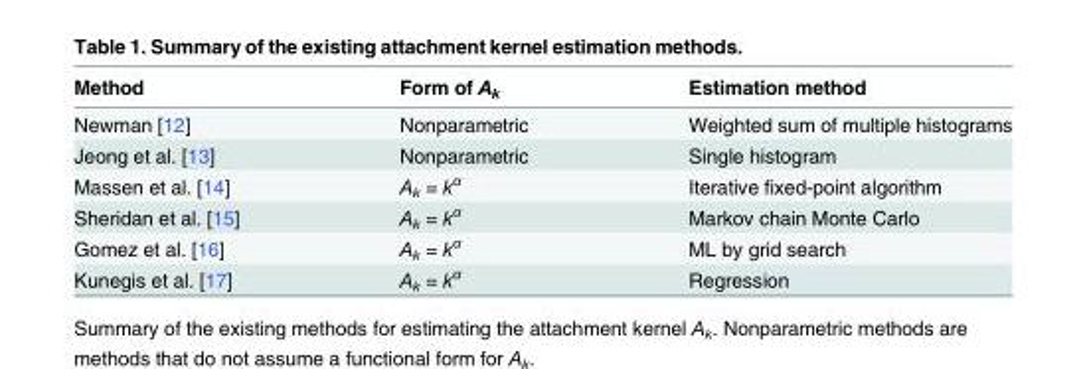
<table><thead><tr><td>Method</td><td>Form of A<sub>k</sub></td><td>Estimation method</td></tr></thead><tbody><tr><td>Newman [12]</td><td>Nonparametric</td><td>Weighted sum of multiple histograms</td></tr><tr><td>Jeong et al. [13]</td><td>Nonparametric</td><td>Single histogram</td></tr><tr><td>Massen et al. [14]</td><td>A<sub>k</sub> = k<sup>α</sup></td><td>Iterative fixed-point algorithm</td></tr><tr><td>Sheridan et al. [15]</td><td>A<sub>k</sub> = k<sup>α</sup></td><td>Markov chain Monte Carlo</td></tr><tr><td>Gomez et al. [16]</td><td>A<sub>k</sub> = k<sup>α</sup></td><td>ML by grid search</td></tr><tr><td>Kunegis et al. [17]</td><td>A<sub>k</sub> = k<sup>α</sup></td><td>Regression</td></tr></tbody></table>